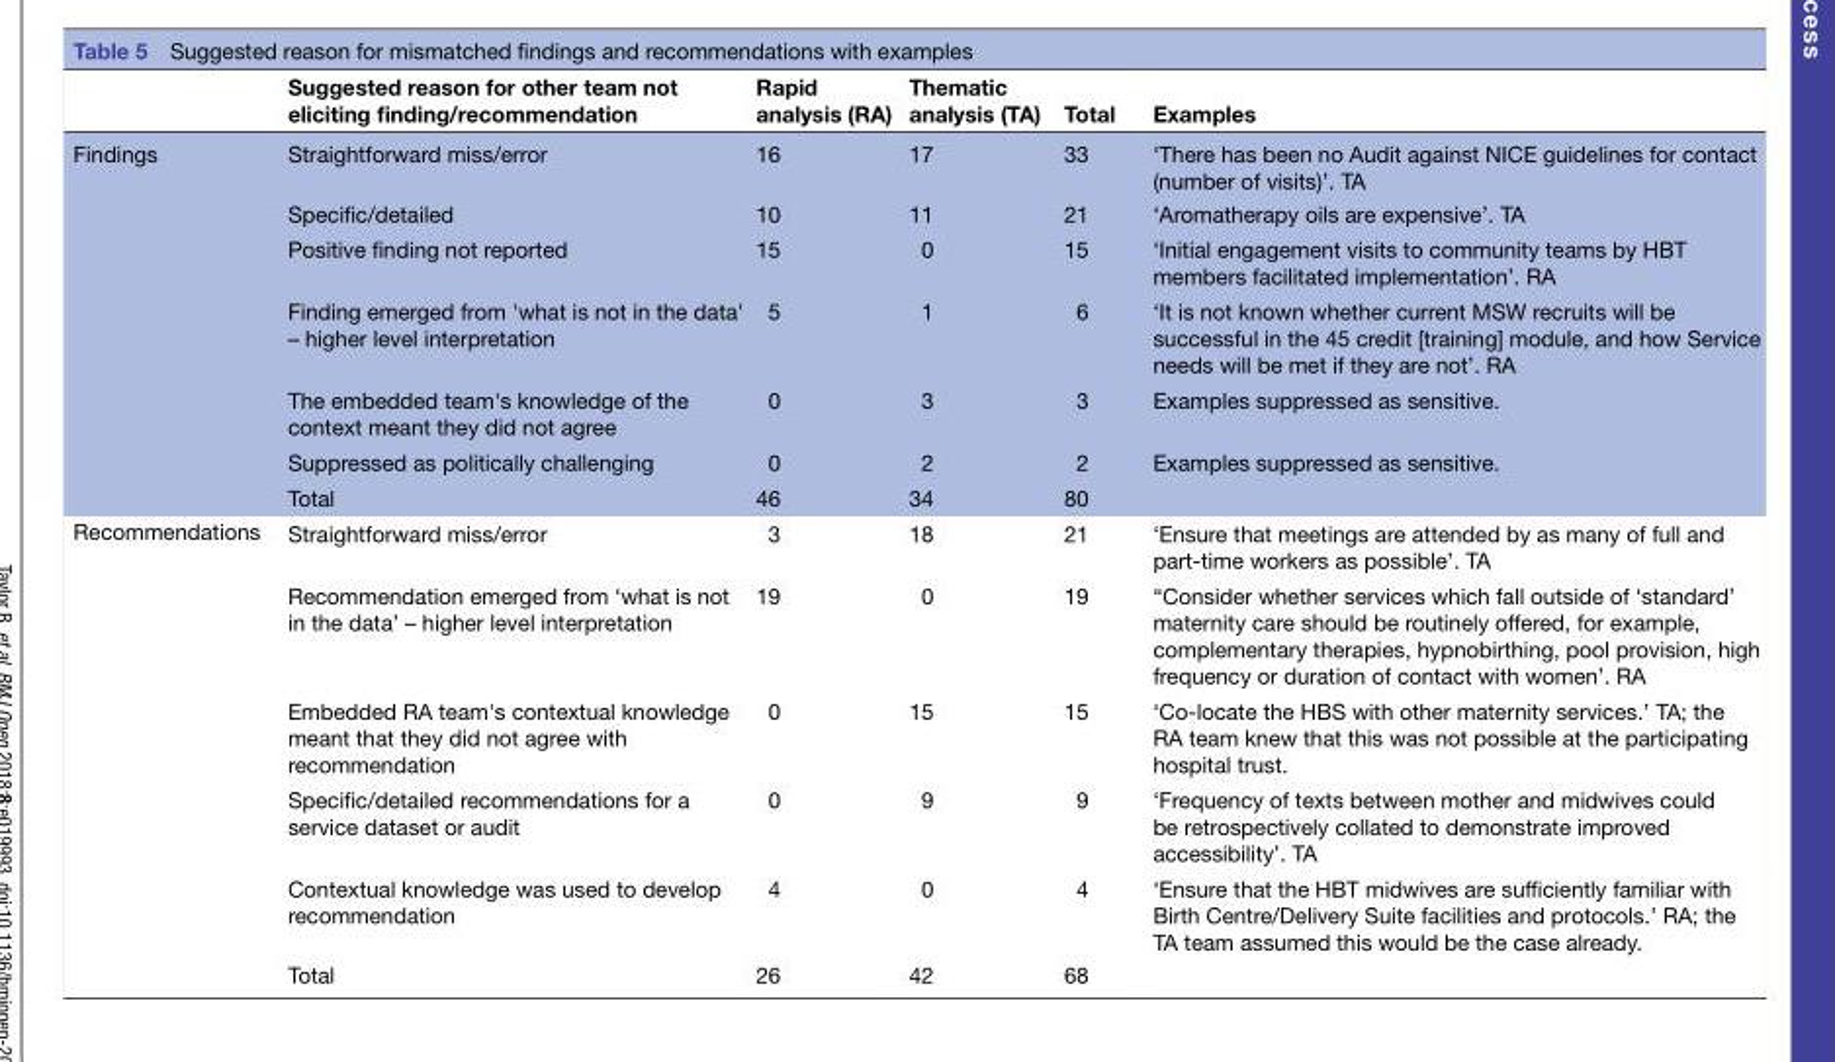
<table><thead><tr><td></td><td>Suggested reason for other team not eliciting finding/recommendation</td><td>Rapid analysis (RA)</td><td>Thematic analysis (TA)</td><td>Total</td><td>Examples</td></tr></thead><tbody><tr><td rowspan="7">Findings</td><td>Straightforward miss/error</td><td>16</td><td>17</td><td>33</td><td>‘There has been no Audit against NICE guidelines for contact (number of visits)’. TA</td></tr><tr><td>Specific/detailed</td><td>10</td><td>11</td><td>21</td><td>‘Aromatherapy oils are expensive’. TA</td></tr><tr><td>Positive finding not reported</td><td>15</td><td>0</td><td>15</td><td>‘Initial engagement visits to community teams by HBT members facilitated implementation’. RA</td></tr><tr><td>Finding emerged from &#x27;what is not in the data&#x27; – higher level interpretation</td><td>5</td><td>1</td><td>6</td><td>‘It is not known whether current MSW recruits will be successful in the 45 credit [training] module, and how Service needs will be met if they are not’. RA</td></tr><tr><td>The embedded team&#x27;s knowledge of the context meant they did not agree</td><td>0</td><td>3</td><td>3</td><td>Examples suppressed as sensitive.</td></tr><tr><td>Suppressed as politically challenging</td><td>0</td><td>2</td><td>2</td><td>Examples suppressed as sensitive.</td></tr><tr><td>Total</td><td>46</td><td>34</td><td>80</td><td></td></tr><tr><td rowspan="6">Recommendations</td><td>Straightforward miss/error</td><td>3</td><td>18</td><td>21</td><td>‘Ensure that meetings are attended by as many of full and part-time workers as possible’. TA</td></tr><tr><td>Recommendation emerged from ‘what is not in the data’ – higher level interpretation</td><td>19</td><td>0</td><td>19</td><td>“Consider whether services which fall outside of ‘standard’ maternity care should be routinely offered, for example, complementary therapies, hypnobirthing, pool provision, high frequency or duration of contact with women’. RA</td></tr><tr><td>Embedded RA team&#x27;s contextual knowledge meant that they did not agree with recommendation</td><td>0</td><td>15</td><td>15</td><td>‘Co-locate the HBS with other maternity services.’ TA; the RA team knew that this was not possible at the participating hospital trust.</td></tr><tr><td>Specific/detailed recommendations for a service dataset or audit</td><td>0</td><td>9</td><td>9</td><td>‘Frequency of texts between mother and midwives could be retrospectively collated to demonstrate improved accessibility’. TA</td></tr><tr><td>Contextual knowledge was used to develop recommendation</td><td>4</td><td>0</td><td>4</td><td>‘Ensure that the HBT midwives are sufficiently familiar with Birth Centre/Delivery Suite facilities and protocols.’ RA; the TA team assumed this would be the case already.</td></tr><tr><td>Total</td><td>26</td><td>42</td><td>68</td><td></td></tr></tbody></table>